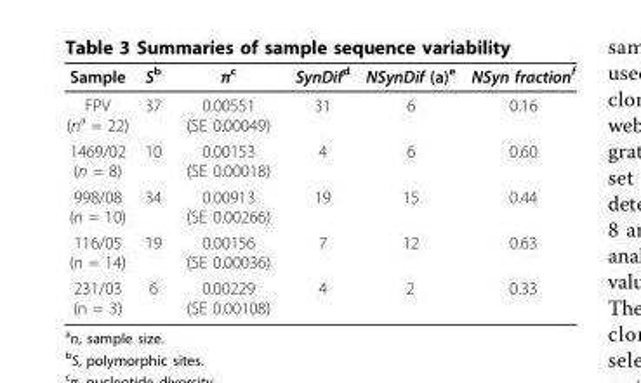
<table><thead><tr><td>Sample</td><td>S<sup>b</sup></td><td>π<sup>c</sup></td><td>SynDif<sup>d</sup></td><td>NSynDif (a)<sup>e</sup></td><td>NSyn fraction<sup>f</sup></td></tr></thead><tbody><tr><td>FPV (n<sup>a</sup> = 22)</td><td>37</td><td>0.00551 (SE 0.00049)</td><td>31</td><td>6</td><td>0.16</td></tr><tr><td>1469/02 (n = 8)</td><td>10</td><td>0.00153 (SE 0.00018)</td><td>4</td><td>6</td><td>0.60</td></tr><tr><td>998/08 (n = 10)</td><td>34</td><td>0.00913 (SE 0.00266)</td><td>19</td><td>15</td><td>0.44</td></tr><tr><td>116/05 (n = 14)</td><td>19</td><td>0.00156 (SE 0.00036)</td><td>7</td><td>12</td><td>0.63</td></tr><tr><td>231/03 (n = 3)</td><td>6</td><td>0.00229 (SE 0.00108)</td><td>4</td><td>2</td><td>0.33</td></tr></tbody></table>